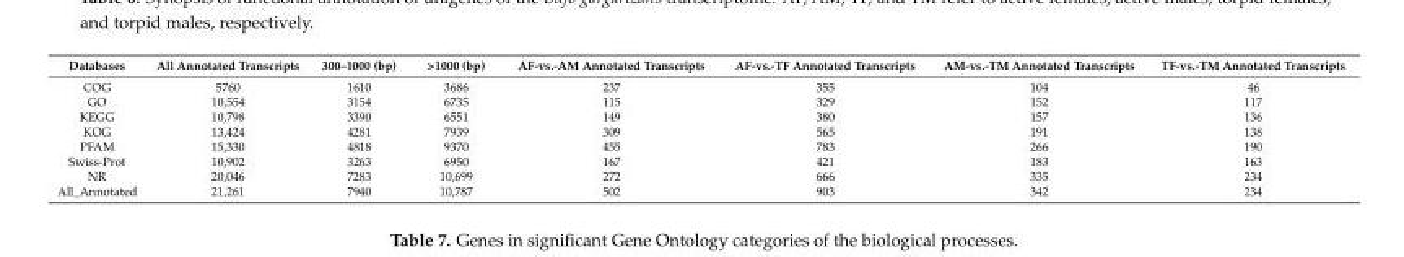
<table><thead><tr><td>Databases</td><td>All Annotated Transcripts</td><td>300–1000 (bp)</td><td>&gt;1000 (bp)</td><td>AF-vs.-AM Annotated Transcripts</td><td>AF-vs.-TF Annotated Transcripts</td><td>AM-vs.-TM Annotated Transcripts</td><td>TF-vs.-TM Annotated Transcripts</td></tr></thead><tbody><tr><td>COG</td><td>5760</td><td>1610</td><td>3686</td><td>237</td><td>355</td><td>104</td><td>46</td></tr><tr><td>GO</td><td>10,554</td><td>3154</td><td>6735</td><td>115</td><td>329</td><td>152</td><td>117</td></tr><tr><td>KEGG</td><td>10,798</td><td>3390</td><td>6551</td><td>149</td><td>380</td><td>157</td><td>136</td></tr><tr><td>KOG</td><td>13,424</td><td>4281</td><td>7939</td><td>309</td><td>565</td><td>191</td><td>138</td></tr><tr><td>PFAM</td><td>15,330</td><td>4818</td><td>9370</td><td>455</td><td>783</td><td>266</td><td>190</td></tr><tr><td>Swiss-Prot</td><td>10,902</td><td>3263</td><td>6950</td><td>167</td><td>421</td><td>183</td><td>163</td></tr><tr><td>NR</td><td>20,046</td><td>7283</td><td>10,699</td><td>272</td><td>666</td><td>335</td><td>234</td></tr><tr><td>All_Annotated</td><td>21,261</td><td>7940</td><td>10,787</td><td>502</td><td>903</td><td>342</td><td>234</td></tr></tbody></table>